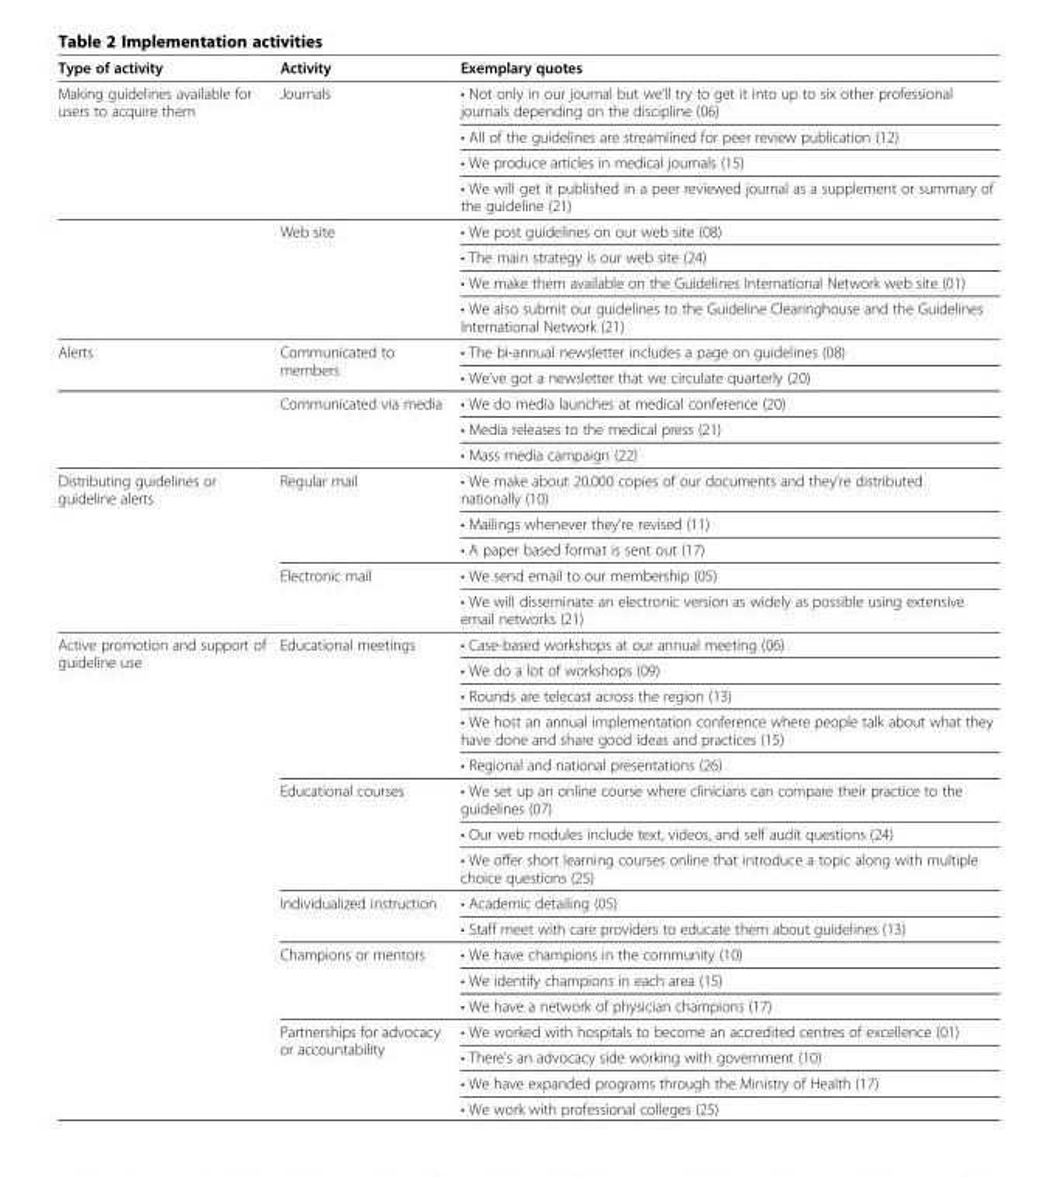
<table><thead><tr><td>Type of activity</td><td>Activity</td><td>Exemplary quotes</td></tr></thead><tbody><tr><td rowspan="8">Making guidelines available for users to acquire them</td><td rowspan="4">Journals</td><td>• Not only in our journal but we’ll try to get it into up to six other professional journals depending on the discipline (06)</td></tr><tr><td>• All of the guidelines are streamlined for peer review publication (12)</td></tr><tr><td>• We produce articles in medical journals (15)</td></tr><tr><td>• We will get it published in a peer reviewed journal as a supplement or summary of the guideline (21)</td></tr><tr><td rowspan="4">Web site</td><td>• We post guidelines on our web site (08)</td></tr><tr><td>• The main strategy is our web site (24)</td></tr><tr><td>• We make them available on the Guidelines International Network web site (01)</td></tr><tr><td>• We also submit our guidelines to the Guideline Clearinghouse and the Guidelines International Network (21)</td></tr><tr><td rowspan="5">Alerts</td><td rowspan="2">Communicated to members</td><td>• The bi-annual newsletter includes a page on guidelines (08)</td></tr><tr><td>• We’ve got a newsletter that we circulate quarterly (20)</td></tr><tr><td rowspan="3">Communicated via media</td><td>• We do media launches at medical conference (20)</td></tr><tr><td>• Media releases to the medical press (21)</td></tr><tr><td>• Mass media campaign (22)</td></tr><tr><td rowspan="5">Distributing guidelines or guideline alerts</td><td rowspan="3">Regular mail</td><td>• We make about 20,000 copies of our documents and they’re distributed nationally (10)</td></tr><tr><td>• Mailings whenever they’re revised (11)</td></tr><tr><td>• A paper based format is sent out (17)</td></tr><tr><td rowspan="2">Electronic mail</td><td>• We send email to our membership (05)</td></tr><tr><td>• We will disseminate an electronic version as widely as possible using extensive email networks (21)</td></tr><tr><td rowspan="17">Active promotion and support of guideline use</td><td rowspan="5">Educational meetings</td><td>• Case-based workshops at our annual meeting (06)</td></tr><tr><td>• We do a lot of workshops (09)</td></tr><tr><td>• Rounds are telecast across the region (13)</td></tr><tr><td>• We host an annual implementation conference where people talk about what they have done and share good ideas and practices (15)</td></tr><tr><td>• Regional and national presentations (26)</td></tr><tr><td rowspan="3">Educational courses</td><td>• We set up an online course where clinicians can compare their practice to the guidelines (07)</td></tr><tr><td>• Our web modules include text, videos, and self audit questions (24)</td></tr><tr><td>• We offer short learning courses online that introduce a topic along with multiple choice questions (25)</td></tr><tr><td rowspan="2">Individualized instruction</td><td>• Academic detailing (05)</td></tr><tr><td>• Staff meet with care providers to educate them about guidelines (13)</td></tr><tr><td rowspan="3">Champions or mentors</td><td>• We have champions in the community (10)</td></tr><tr><td>• We identify champions in each area (15)</td></tr><tr><td>• We have a network of physician champions (17)</td></tr><tr><td rowspan="4">Partnerships for advocacy or accountability</td><td>• We worked with hospitals to become an accredited centres of excellence (01)</td></tr><tr><td>• There’s an advocacy side working with government (10)</td></tr><tr><td>• We have expanded programs through the Ministry of Health (17)</td></tr><tr><td>• We work with professional colleges (25)</td></tr></tbody></table>